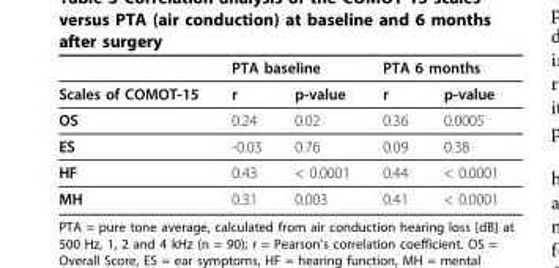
<table><thead><tr><td rowspan="2">Scales of COMOT-15</td><td colspan="2">PTA baseline</td><td colspan="2">PTA 6 months</td></tr><tr><td>r</td><td>p-value</td><td>r</td><td>p-value</td></tr></thead><tbody><tr><td>OS</td><td>0.24</td><td>0.02</td><td>0.36</td><td>0.0005</td></tr><tr><td>ES</td><td>-0.03</td><td>0.76</td><td>0.09</td><td>0.38</td></tr><tr><td>HF</td><td>0.43</td><td>&lt; 0.0001</td><td>0.44</td><td>&lt; 0.0001</td></tr><tr><td>MH</td><td>0.31</td><td>0.003</td><td>0.41</td><td>&lt; 0.0001</td></tr></tbody></table>